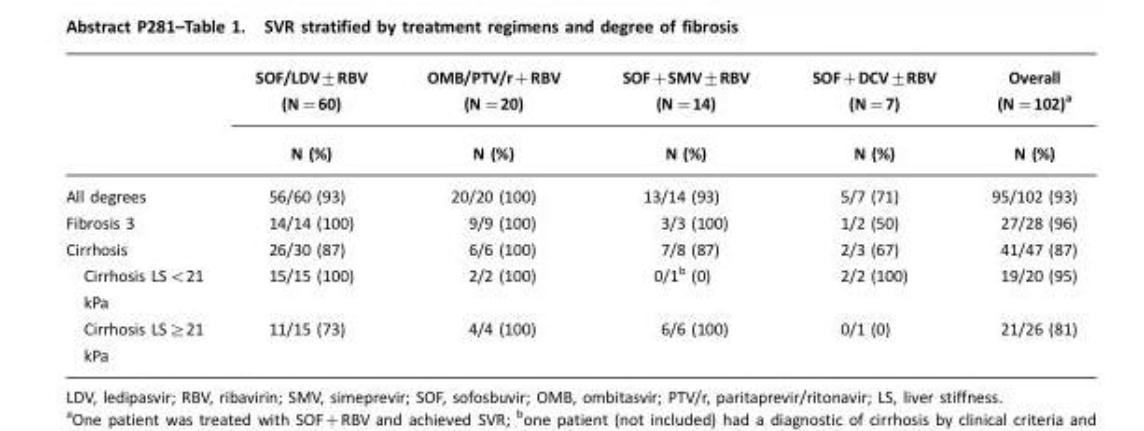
<table><thead><tr><td rowspan="2"></td><td rowspan="2">SOF/LDV±RBV (N=60) N (%)</td><td rowspan="2">OMB/PTV/r+RBV (N=20) N (%)</td><td rowspan="2">SOF+SMV±RBV (N=14) N (%)</td><td rowspan="2">SOF+DCV±RBV (N=7) N (%)</td><td rowspan="2">Overall (N=102)a N (%)</td></tr><tr></tr></thead><tbody><tr><td>All degrees</td><td>56/60 (93)</td><td>20/20 (100)</td><td>13/14 (93)</td><td>5/7 (71)</td><td>95/102 (93)</td></tr><tr><td>Fibrosis 3</td><td>14/14 (100)</td><td>9/9 (100)</td><td>3/3 (100)</td><td>1/2 (50)</td><td>27/28 (96)</td></tr><tr><td>Cirrhosis</td><td>26/30 (87)</td><td>6/6 (100)</td><td>7/8 (87)</td><td>2/3 (67)</td><td>41/47 (87)</td></tr><tr><td>Cirrhosis LS&lt;21 kPa</td><td>15/15 (100)</td><td>2/2 (100)</td><td>0/1b (0)</td><td>2/2 (100)</td><td>19/20 (95)</td></tr><tr><td>Cirrhosis LS≥21 kPa</td><td>11/15 (73)</td><td>4/4 (100)</td><td>6/6 (100)</td><td>0/1 (0)</td><td>21/26 (81)</td></tr></tbody></table>